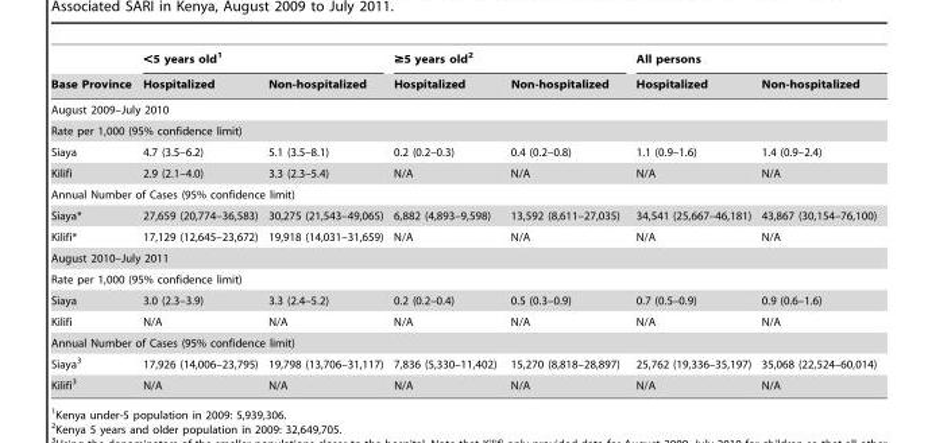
<table><thead><tr><td rowspan="2">Base Province</td><td colspan="2">&lt;5 years old<sup>1</sup></td><td colspan="2">≥5 years old<sup>2</sup></td><td colspan="2">All persons</td></tr><tr><td>Hospitalized</td><td>Non-hospitalized</td><td>Hospitalized</td><td>Non-hospitalized</td><td>Hospitalized</td><td>Non-hospitalized</td></tr></thead><tbody><tr><td colspan="7">August 2009–July 2010</td></tr><tr><td colspan="7">Rate per 1,000 (95% confidence limit)</td></tr><tr><td>Siaya</td><td>4.7 (3.5–6.2)</td><td>5.1 (3.5–8.1)</td><td>0.2 (0.2–0.3)</td><td>0.4 (0.2–0.8)</td><td>1.1 (0.9–1.6)</td><td>1.4 (0.9–2.4)</td></tr><tr><td>Kilifi</td><td>2.9 (2.1–4.0)</td><td>3.3 (2.3–5.4)</td><td>N/A</td><td>N/A</td><td>N/A</td><td>N/A</td></tr><tr><td colspan="7">Annual Number of Cases (95% confidence limit)</td></tr><tr><td>Siaya*</td><td>27,659 (20,774–36,583)</td><td>30,275 (21,543–49,065)</td><td>6,882 (4,893–9,598)</td><td>13,592 (8,611–27,035)</td><td>34,541 (25,667–46,181)</td><td>43,867 (30,154–76,100)</td></tr><tr><td>Kilifi*</td><td>17,129 (12,645–23,672)</td><td>19,918 (14,031–31,659)</td><td>N/A</td><td>N/A</td><td>N/A</td><td>N/A</td></tr><tr><td colspan="7">August 2010–July 2011</td></tr><tr><td colspan="7">Rate per 1,000 (95% confidence limit)</td></tr><tr><td>Siaya</td><td>3.0 (2.3–3.9)</td><td>3.3 (2.4–5.2)</td><td>0.2 (0.2–0.4)</td><td>0.5 (0.3–0.9)</td><td>0.7 (0.5–0.9)</td><td>0.9 (0.6–1.6)</td></tr><tr><td>Kilifi</td><td>N/A</td><td>N/A</td><td>N/A</td><td>N/A</td><td>N/A</td><td>N/A</td></tr><tr><td colspan="7">Annual Number of Cases (95% confidence limit)</td></tr><tr><td>Siaya<sup>3</sup></td><td>17,926 (14,006–23,795)</td><td>19,798 (13,706–31,117)</td><td>7,836 (5,330–11,402)</td><td>15,270 (8,818–28,897)</td><td>25,762 (19,336–35,197)</td><td>35,068 (22,524–60,014)</td></tr><tr><td>Kilifi<sup>3</sup></td><td>N/A</td><td>N/A</td><td>N/A</td><td>N/A</td><td>N/A</td><td>N/A</td></tr></tbody></table>